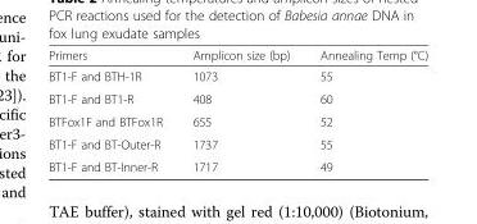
<table><thead><tr><td>Primers</td><td>Amplicon size (bp)</td><td>Annealing Temp (°C)</td></tr></thead><tbody><tr><td>BT1-F and BTH-1R</td><td>1073</td><td>55</td></tr><tr><td>BT1-F and BT1-R</td><td>408</td><td>60</td></tr><tr><td>BTFox1F and BTFox1R</td><td>655</td><td>52</td></tr><tr><td>BT1-F and BT-Outer-R</td><td>1737</td><td>55</td></tr><tr><td>BT1-F and BT-Inner-R</td><td>1717</td><td>49</td></tr></tbody></table>